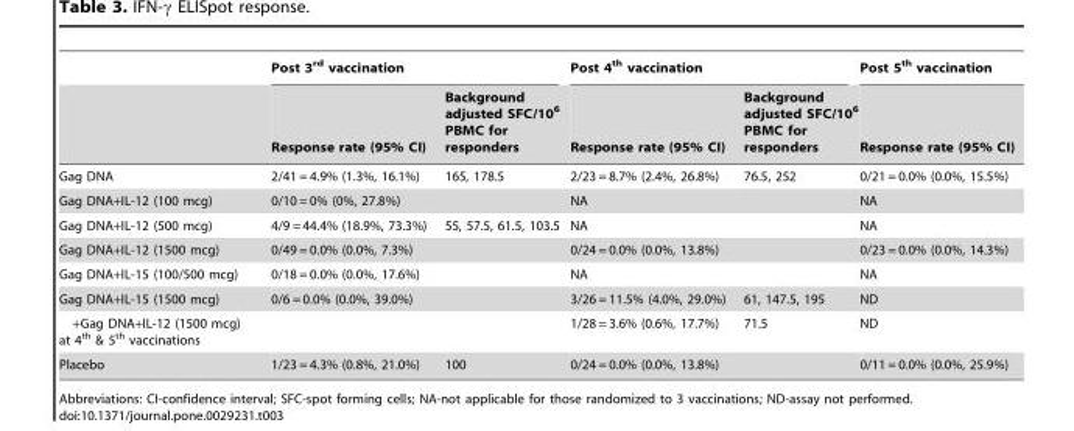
<table><thead><tr><td rowspan="2"></td><td colspan="2">Post 3<sup>rd</sup> vaccination</td><td colspan="2">Post 4<sup>th</sup> vaccination</td><td rowspan="2">Post 5<sup>th</sup> vaccination Response rate (95% CI)</td></tr><tr><td>Response rate (95% CI)</td><td>Background adjusted SFC/10<sup>6</sup> PBMC for responders</td><td>Response rate (95% CI)</td><td>Background adjusted SFC/10<sup>6</sup> PBMC for responders</td></tr></thead><tbody><tr><td>Gag DNA</td><td>2/41 = 4.9% (1.3%, 16.1%)</td><td>165, 178.5</td><td>2/23 = 8.7% (2.4%, 26.8%)</td><td>76.5, 252</td><td>0/21 = 0.0% (0.0%, 15.5%)</td></tr><tr><td>Gag DNA+IL-12 (100 mcg)</td><td>0/10 = 0% (0%, 27.8%)</td><td></td><td>NA</td><td></td><td>NA</td></tr><tr><td>Gag DNA+IL-12 (500 mcg)</td><td>4/9 = 44.4% (18.9%, 73.3%)</td><td>55, 57.5, 61.5, 103.5</td><td>NA</td><td></td><td>NA</td></tr><tr><td>Gag DNA+IL-12 (1500 mcg)</td><td>0/49 = 0.0% (0.0%, 7.3%)</td><td></td><td>0/24 = 0.0% (0.0%, 13.8%)</td><td></td><td>0/23 = 0.0% (0.0%, 14.3%)</td></tr><tr><td>Gag DNA+IL-15 (100/500 mcg)</td><td>0/18 = 0.0% (0.0%, 17.6%)</td><td></td><td>NA</td><td></td><td>NA</td></tr><tr><td>Gag DNA+IL-15 (1500 mcg)</td><td>0/6 = 0.0% (0.0%, 39.0%)</td><td></td><td>3/26 = 11.5% (4.0%, 29.0%)</td><td>61, 147.5, 195</td><td>ND</td></tr><tr><td>+Gag DNA+IL-12 (1500 mcg) at 4<sup>th</sup> &amp; 5<sup>th</sup> vaccinations</td><td></td><td></td><td>1/28 = 3.6% (0.6%, 17.7%)</td><td>71.5</td><td>ND</td></tr><tr><td>Placebo</td><td>1/23 = 4.3% (0.8%, 21.0%)</td><td>100</td><td>0/24 = 0.0% (0.0%, 13.8%)</td><td></td><td>0/11 = 0.0% (0.0%, 25.9%)</td></tr></tbody></table>